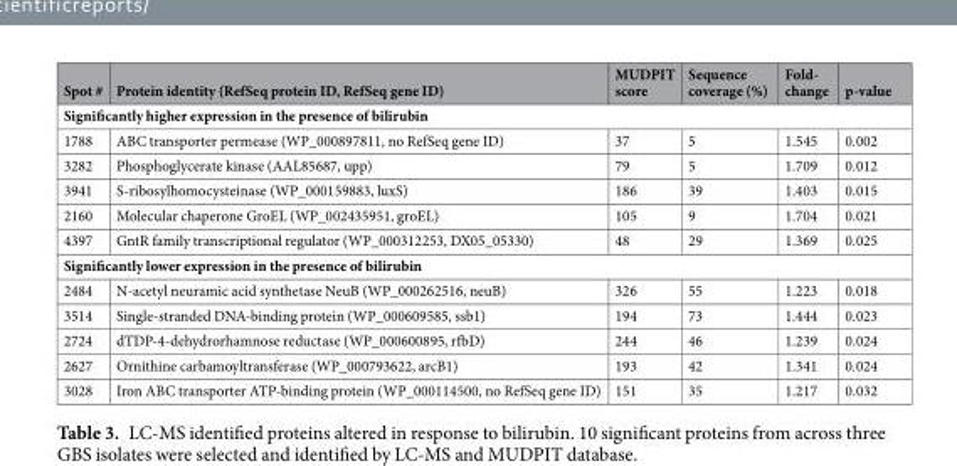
<table><thead><tr><td>Spot #</td><td>Protein identity (RefSeq protein ID, RefSeq gene ID)</td><td>MUDPIT score</td><td>Sequence coverage (%)</td><td>Fold- change</td><td>p-value</td></tr></thead><tbody><tr><td colspan="6">Significantly higher expression in the presence of bilirubin</td></tr><tr><td>1788</td><td>ABC transporter permease (WP_000897811, no RefSeq gene ID)</td><td>37</td><td>5</td><td>1.545</td><td>0.002</td></tr><tr><td>3282</td><td>Phosphoglycerate kinase (AAL85687, upp)</td><td>79</td><td>5</td><td>1.709</td><td>0.012</td></tr><tr><td>3941</td><td>S-ribosylhomocysteinase (WP_000159883, luxS)</td><td>186</td><td>39</td><td>1.403</td><td>0.015</td></tr><tr><td>2160</td><td>Molecular chaperone GroEL (WP_002435951, groEL)</td><td>105</td><td>9</td><td>1.704</td><td>0.021</td></tr><tr><td>4397</td><td>GntR family transcriptional regulator (WP_000312253, DX05_05330)</td><td>48</td><td>29</td><td>1.369</td><td>0.025</td></tr><tr><td colspan="6">Significantly lower expression in the presence of bilirubin</td></tr><tr><td>2484</td><td>N-acetyl neuramic acid synthetase NeuB (WP_000262516, neuB)</td><td>326</td><td>55</td><td>1.223</td><td>0.018</td></tr><tr><td>3514</td><td>Single-stranded DNA-binding protein (WP_000609585, ssb1)</td><td>194</td><td>73</td><td>1.444</td><td>0.023</td></tr><tr><td>2724</td><td>dTDP-4-dehydrorhamnose reductase (WP_000600895, rfbD)</td><td>244</td><td>46</td><td>1.239</td><td>0.024</td></tr><tr><td>2627</td><td>Ornithine carbamoyltransferase (WP_000793622, arcB1)</td><td>193</td><td>42</td><td>1.341</td><td>0.024</td></tr><tr><td>3028</td><td>Iron ABC transporter ATP-binding protein (WP_000114500, no RefSeq gene ID)</td><td>151</td><td>35</td><td>1.217</td><td>0.032</td></tr></tbody></table>